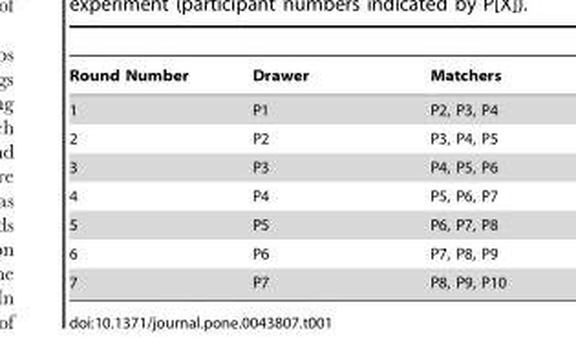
<table><thead><tr><td>Round Number</td><td>Drawer</td><td>Matchers</td></tr></thead><tbody><tr><td>1</td><td>P1</td><td>P2, P3, P4</td></tr><tr><td>2</td><td>P2</td><td>P3, P4, P5</td></tr><tr><td>3</td><td>P3</td><td>P4, P5, P6</td></tr><tr><td>4</td><td>P4</td><td>P5, P6, P7</td></tr><tr><td>5</td><td>P5</td><td>P6, P7, P8</td></tr><tr><td>6</td><td>P6</td><td>P7, P8, P9</td></tr><tr><td>7</td><td>P7</td><td>P8, P9, P10</td></tr></tbody></table>